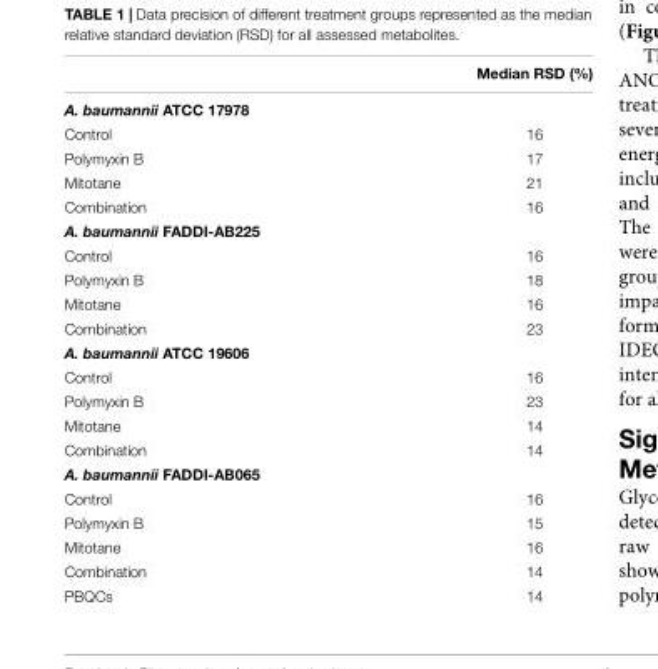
<table><thead><tr><td></td><td>Median RSD (%)</td></tr></thead><tbody><tr><td colspan="2">A. baumannii ATCC 17978</td></tr><tr><td>Control</td><td>16</td></tr><tr><td>Polymyxin B</td><td>17</td></tr><tr><td>Mitotane</td><td>21</td></tr><tr><td>Combination</td><td>16</td></tr><tr><td colspan="2">A. baumannii FADDI-AB225</td></tr><tr><td>Control</td><td>16</td></tr><tr><td>Polymyxin B</td><td>18</td></tr><tr><td>Mitotane</td><td>16</td></tr><tr><td>Combination</td><td>23</td></tr><tr><td colspan="2">A. baumannii ATCC 19606</td></tr><tr><td>Control</td><td>16</td></tr><tr><td>Polymyxin B</td><td>23</td></tr><tr><td>Mitotane</td><td>14</td></tr><tr><td>Combination</td><td>14</td></tr><tr><td colspan="2">A. baumannii FADDI-AB065</td></tr><tr><td>Control</td><td>16</td></tr><tr><td>Polymyxin B</td><td>15</td></tr><tr><td>Mitotane</td><td>16</td></tr><tr><td>Combination</td><td>14</td></tr><tr><td>PBQCs</td><td>14</td></tr></tbody></table>